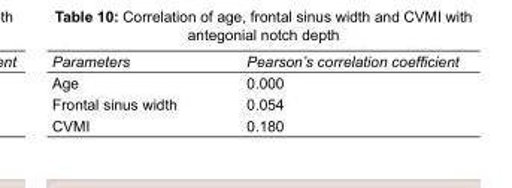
<table><tbody><tr><td>Parameters</td><td>Pearson’s correlation coefficient</td></tr><tr><td>Age</td><td>0.000</td></tr><tr><td>Frontal sinus width</td><td>0.054</td></tr><tr><td>CVMI</td><td>0.180</td></tr></tbody></table>